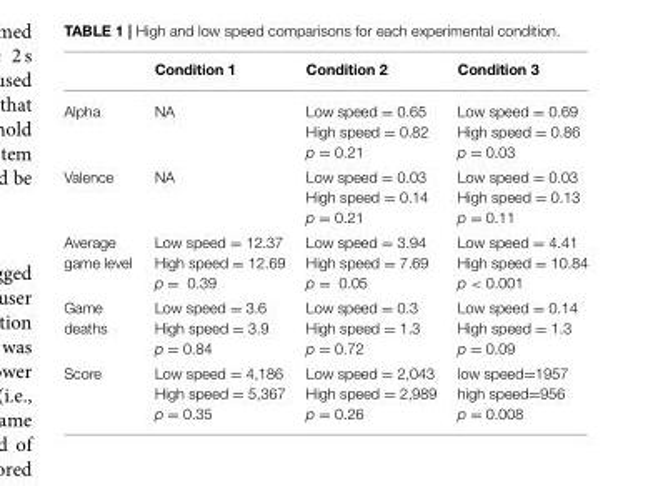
<table><thead><tr><td></td><td>Condition 1</td><td>Condition 2</td><td>Condition 3</td></tr></thead><tbody><tr><td>Alpha</td><td>NA</td><td>Low speed = 0.65 High speed = 0.82 p = 0.21</td><td>Low speed = 0.69 High speed = 0.86 p = 0.03</td></tr><tr><td>Valence</td><td>NA</td><td>Low speed = 0.03 High speed = 0.14 p = 0.21</td><td>Low speed = 0.03 High speed = 0.13 p = 0.11</td></tr><tr><td>Average game level</td><td>Low speed = 12.37 High speed = 12.69 p = 0.39</td><td>Low speed = 3.94 High speed = 7.69 p = 0.05</td><td>Low speed = 4.41 High speed = 10.84 p &lt; 0.001</td></tr><tr><td>Game deaths</td><td>Low speed = 3.6 High speed = 3.9 p = 0.84</td><td>Low speed = 0.3 High speed = 1.3 p = 0.72</td><td>Low speed = 0.14 High speed = 1.3 p = 0.09</td></tr><tr><td>Score</td><td>Low speed = 4,186 High speed = 5,367 p = 0.35</td><td>Low speed = 2,043 High speed = 2,989 p = 0.26</td><td>low speed=1957 high speed=956 p = 0.008</td></tr></tbody></table>